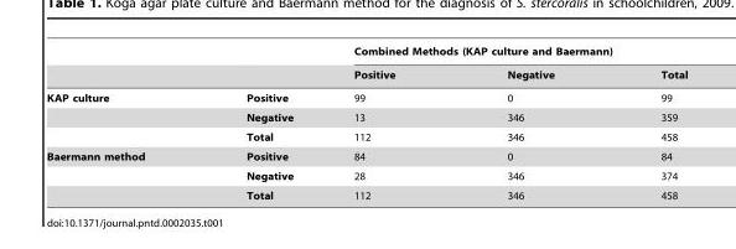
<table><thead><tr><td rowspan="2"></td><td rowspan="2"></td><td colspan="3">Combined Methods (KAP culture and Baermann)</td></tr><tr><td>Positive</td><td>Negative</td><td>Total</td></tr></thead><tbody><tr><td rowspan="3">KAP culture</td><td>Positive</td><td>99</td><td>0</td><td>99</td></tr><tr><td>Negative</td><td>13</td><td>346</td><td>359</td></tr><tr><td>Total</td><td>112</td><td>346</td><td>458</td></tr><tr><td rowspan="3">Baermann method</td><td>Positive</td><td>84</td><td>0</td><td>84</td></tr><tr><td>Negative</td><td>28</td><td>346</td><td>374</td></tr><tr><td>Total</td><td>112</td><td>346</td><td>458</td></tr></tbody></table>